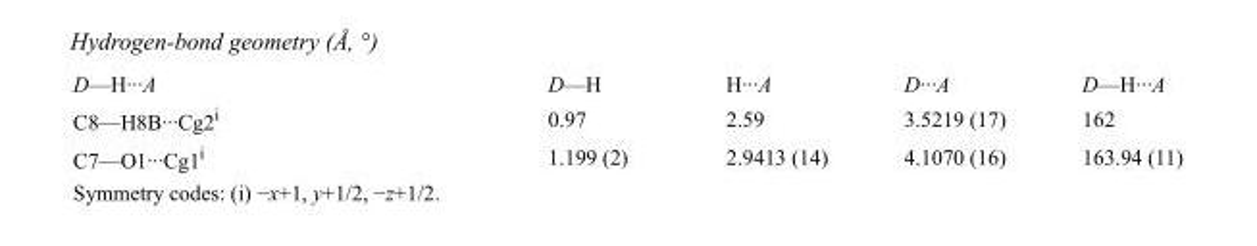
<table><tbody><tr><td>D—H···A</td><td>D—H</td><td>H···A</td><td>D···A</td><td>D—H···A</td></tr><tr><td>C8—H8B···Cg2<sup>i</sup></td><td>0.97</td><td>2.59</td><td>3.5219 (17)</td><td>162</td></tr><tr><td>C7—O1···Cg1<sup>i</sup></td><td>1.199 (2)</td><td>2.9413 (14)</td><td>4.1070 (16)</td><td>163.94 (11)</td></tr></tbody></table>